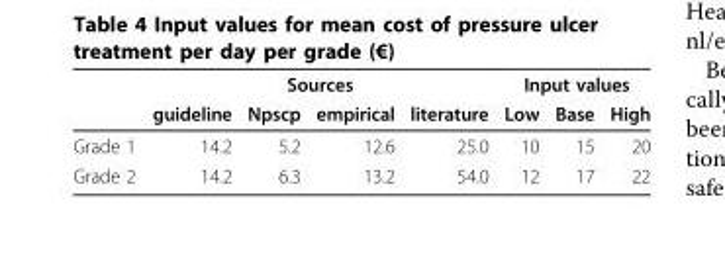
<table><thead><tr><td rowspan="2"></td><td colspan="4">Sources</td><td colspan="3">Input values</td></tr><tr><td>guideline</td><td>Npscp</td><td>empirical</td><td>literature</td><td>Low</td><td>Base</td><td>High</td></tr></thead><tbody><tr><td>Grade 1</td><td>14.2</td><td>5.2</td><td>12.6</td><td>25.0</td><td>10</td><td>15</td><td>20</td></tr><tr><td>Grade 2</td><td>14.2</td><td>6.3</td><td>13.2</td><td>54.0</td><td>12</td><td>17</td><td>22</td></tr></tbody></table>